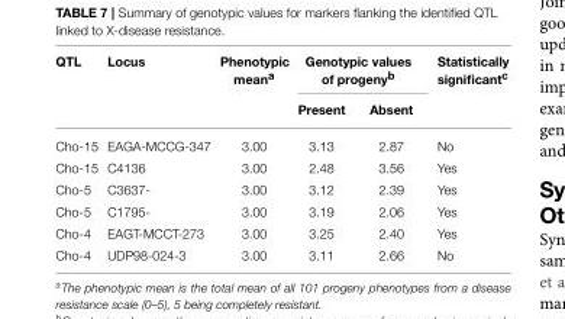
<table><thead><tr><td rowspan="2">QTL</td><td rowspan="2">Locus</td><td rowspan="2">Phenotypic mean<sup>a</sup></td><td colspan="2">Genotypic values of progeny<sup>b</sup></td><td rowspan="2">Statistically significant<sup>c</sup></td></tr><tr><td>Present</td><td>Absent</td></tr></thead><tbody><tr><td>Cho-15</td><td>EAGA-MCCG-347</td><td>3.00</td><td>3.13</td><td>2.87</td><td>No</td></tr><tr><td>Cho-15</td><td>C4136</td><td>3.00</td><td>2.48</td><td>3.56</td><td>Yes</td></tr><tr><td>Cho-5</td><td>C3637-</td><td>3.00</td><td>3.12</td><td>2.39</td><td>Yes</td></tr><tr><td>Cho-5</td><td>C1795-</td><td>3.00</td><td>3.19</td><td>2.06</td><td>Yes</td></tr><tr><td>Cho-4</td><td>EAGT-MCCT-273</td><td>3.00</td><td>3.25</td><td>2.40</td><td>Yes</td></tr><tr><td>Cho-4</td><td>UDP98-024-3</td><td>3.00</td><td>3.11</td><td>2.66</td><td>No</td></tr></tbody></table>